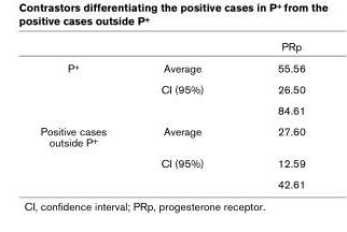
<table><thead><tr><td></td><td></td><td>PRp</td></tr></thead><tbody><tr><td rowspan="3">P+</td><td>Average</td><td>55.56</td></tr><tr><td>CI (95%)</td><td>26.50</td></tr><tr><td></td><td>84.61</td></tr><tr><td rowspan="3">Positive cases outside P+</td><td>Average</td><td>27.60</td></tr><tr><td>CI (95%)</td><td>12.59</td></tr><tr><td></td><td>42.61</td></tr></tbody></table>